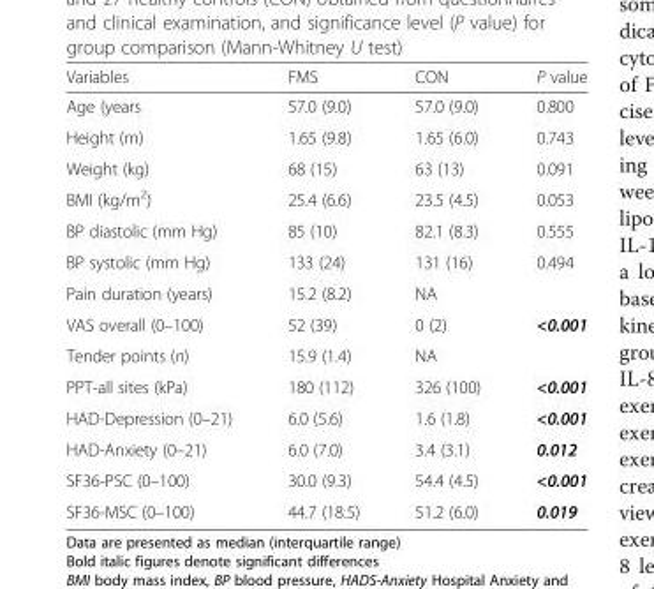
<table><thead><tr><td>Variables</td><td>FMS</td><td>CON</td><td>P value</td></tr></thead><tbody><tr><td>Age (years</td><td>57.0 (9.0)</td><td>57.0 (9.0)</td><td>0.800</td></tr><tr><td>Height (m)</td><td>1.65 (9.8)</td><td>1.65 (6.0)</td><td>0.743</td></tr><tr><td>Weight (kg)</td><td>68 (15)</td><td>63 (13)</td><td>0.091</td></tr><tr><td>BMI (kg/m<sup>2</sup>)</td><td>25.4 (6.6)</td><td>23.5 (4.5)</td><td>0.053</td></tr><tr><td>BP diastolic (mm Hg)</td><td>85 (10)</td><td>82.1 (8.3)</td><td>0.555</td></tr><tr><td>BP systolic (mm Hg)</td><td>133 (24)</td><td>131 (16)</td><td>0.494</td></tr><tr><td>Pain duration (years)</td><td>15.2 (8.2)</td><td>NA</td><td></td></tr><tr><td>VAS overall (0–100)</td><td>52 (39)</td><td>0 (2)</td><td>&lt;0.001</td></tr><tr><td>Tender points (n)</td><td>15.9 (1.4)</td><td>NA</td><td></td></tr><tr><td>PPT-all sites (kPa)</td><td>180 (112)</td><td>326 (100)</td><td>&lt;0.001</td></tr><tr><td>HAD-Depression (0–21)</td><td>6.0 (5.6)</td><td>1.6 (1.8)</td><td>&lt;0.001</td></tr><tr><td>HAD-Anxiety (0–21)</td><td>6.0 (7.0)</td><td>3.4 (3.1)</td><td>0.012</td></tr><tr><td>SF36-PSC (0–100)</td><td>30.0 (9.3)</td><td>54.4 (4.5)</td><td>&lt;0.001</td></tr><tr><td>SF36-MSC (0–100)</td><td>44.7 (18.5)</td><td>51.2 (6.0)</td><td>0.019</td></tr></tbody></table>